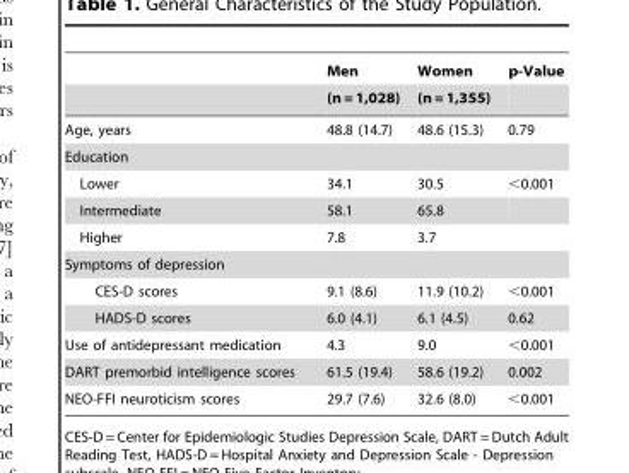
<table><thead><tr><td rowspan="2"></td><td rowspan="2">Men (n = 1,028)</td><td rowspan="2">Women (n = 1,355)</td><td rowspan="2">p-Value</td></tr><tr></tr></thead><tbody><tr><td>Age, years</td><td>48.8 (14.7)</td><td>48.6 (15.3)</td><td>0.79</td></tr><tr><td colspan="4">Education</td></tr><tr><td>Lower</td><td>34.1</td><td>30.5</td><td>&lt;0.001</td></tr><tr><td>Intermediate</td><td>58.1</td><td>65.8</td><td></td></tr><tr><td>Higher</td><td>7.8</td><td>3.7</td><td></td></tr><tr><td colspan="4">Symptoms of depression</td></tr><tr><td>CES-D scores</td><td>9.1 (8.6)</td><td>11.9 (10.2)</td><td>&lt;0.001</td></tr><tr><td>HADS-D scores</td><td>6.0 (4.1)</td><td>6.1 (4.5)</td><td>0.62</td></tr><tr><td>Use of antidepressant medication</td><td>4.3</td><td>9.0</td><td>&lt;0.001</td></tr><tr><td>DART premorbid intelligence scores</td><td>61.5 (19.4)</td><td>58.6 (19.2)</td><td>0.002</td></tr><tr><td>NEO-FFI neuroticism scores</td><td>29.7 (7.6)</td><td>32.6 (8.0)</td><td>&lt;0.001</td></tr></tbody></table>